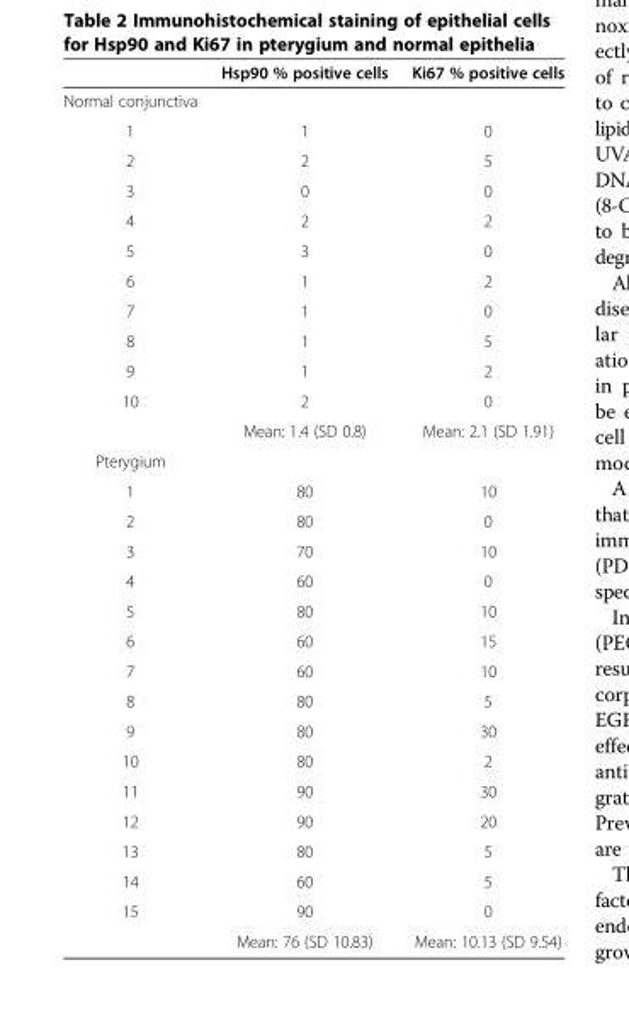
<table><thead><tr><td></td><td>Hsp90 % positive cells</td><td>Ki67 % positive cells</td></tr></thead><tbody><tr><td colspan="3">Normal conjunctiva</td></tr><tr><td>1</td><td>1</td><td>0</td></tr><tr><td>2</td><td>2</td><td>5</td></tr><tr><td>3</td><td>0</td><td>0</td></tr><tr><td>4</td><td>2</td><td>2</td></tr><tr><td>5</td><td>3</td><td>0</td></tr><tr><td>6</td><td>1</td><td>2</td></tr><tr><td>7</td><td>1</td><td>0</td></tr><tr><td>8</td><td>1</td><td>5</td></tr><tr><td>9</td><td>1</td><td>2</td></tr><tr><td rowspan="2">10</td><td>2</td><td>0</td></tr><tr><td>Mean: 1.4 (SD 0.8)</td><td>Mean: 2.1 (SD 1.91)</td></tr><tr><td colspan="3">Pterygium</td></tr><tr><td>1</td><td>80</td><td>10</td></tr><tr><td>2</td><td>80</td><td>0</td></tr><tr><td>3</td><td>70</td><td>10</td></tr><tr><td>4</td><td>60</td><td>0</td></tr><tr><td>5</td><td>80</td><td>10</td></tr><tr><td>6</td><td>60</td><td>15</td></tr><tr><td>7</td><td>60</td><td>10</td></tr><tr><td>8</td><td>80</td><td>5</td></tr><tr><td>9</td><td>80</td><td>30</td></tr><tr><td>10</td><td>80</td><td>2</td></tr><tr><td>11</td><td>90</td><td>30</td></tr><tr><td>12</td><td>90</td><td>20</td></tr><tr><td>13</td><td>80</td><td>5</td></tr><tr><td>14</td><td>60</td><td>5</td></tr><tr><td rowspan="2">15</td><td>90</td><td>0</td></tr><tr><td>Mean: 76 (SD 10.83)</td><td>Mean: 10.13 (SD 9.54)</td></tr></tbody></table>